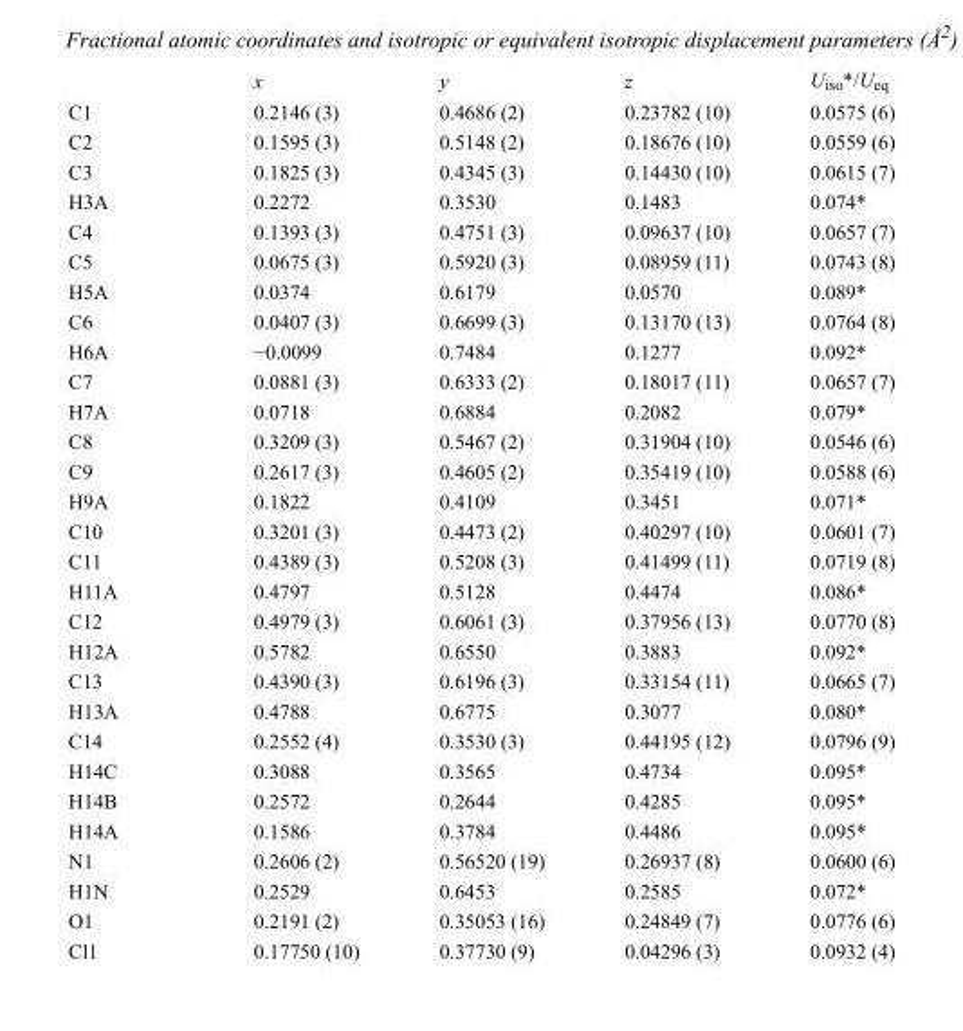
<table><thead><tr><td></td><td>x</td><td>y</td><td>z</td><td>U<sub>iso</sub>*/U<sub>eq</sub></td></tr></thead><tbody><tr><td>C1</td><td>0.2146 (3)</td><td>0.4686 (2)</td><td>0.23782 (10)</td><td>0.0575 (6)</td></tr><tr><td>C2</td><td>0.1595 (3)</td><td>0.5148 (2)</td><td>0.18676 (10)</td><td>0.0559 (6)</td></tr><tr><td>C3</td><td>0.1825 (3)</td><td>0.4345 (3)</td><td>0.14430 (10)</td><td>0.0615 (7)</td></tr><tr><td>H3A</td><td>0.2272</td><td>0.3530</td><td>0.1483</td><td>0.074*</td></tr><tr><td>C4</td><td>0.1393 (3)</td><td>0.4751 (3)</td><td>0.09637 (10)</td><td>0.0657 (7)</td></tr><tr><td>C5</td><td>0.0675 (3)</td><td>0.5920 (3)</td><td>0.08959 (11)</td><td>0.0743 (8)</td></tr><tr><td>H5A</td><td>0.0374</td><td>0.6179</td><td>0.0570</td><td>0.089*</td></tr><tr><td>C6</td><td>0.0407 (3)</td><td>0.6699 (3)</td><td>0.13170 (13)</td><td>0.0764 (8)</td></tr><tr><td>H6A</td><td>−0.0099</td><td>0.7484</td><td>0.1277</td><td>0.092*</td></tr><tr><td>C7</td><td>0.0881 (3)</td><td>0.6333 (2)</td><td>0.18017 (11)</td><td>0.0657 (7)</td></tr><tr><td>H7A</td><td>0.0718</td><td>0.6884</td><td>0.2082</td><td>0.079*</td></tr><tr><td>C8</td><td>0.3209 (3)</td><td>0.5467 (2)</td><td>0.31904 (10)</td><td>0.0546 (6)</td></tr><tr><td>C9</td><td>0.2617 (3)</td><td>0.4605 (2)</td><td>0.35419 (10)</td><td>0.0588 (6)</td></tr><tr><td>H9A</td><td>0.1822</td><td>0.4109</td><td>0.3451</td><td>0.071*</td></tr><tr><td>C10</td><td>0.3201 (3)</td><td>0.4473 (2)</td><td>0.40297 (10)</td><td>0.0601 (7)</td></tr><tr><td>C11</td><td>0.4389 (3)</td><td>0.5208 (3)</td><td>0.41499 (11)</td><td>0.0719 (8)</td></tr><tr><td>H11A</td><td>0.4797</td><td>0.5128</td><td>0.4474</td><td>0.086*</td></tr><tr><td>C12</td><td>0.4979 (3)</td><td>0.6061 (3)</td><td>0.37956 (13)</td><td>0.0770 (8)</td></tr><tr><td>H12A</td><td>0.5782</td><td>0.6550</td><td>0.3883</td><td>0.092*</td></tr><tr><td>C13</td><td>0.4390 (3)</td><td>0.6196 (3)</td><td>0.33154 (11)</td><td>0.0665 (7)</td></tr><tr><td>H13A</td><td>0.4788</td><td>0.6775</td><td>0.3077</td><td>0.080*</td></tr><tr><td>C14</td><td>0.2552 (4)</td><td>0.3530 (3)</td><td>0.44195 (12)</td><td>0.0796 (9)</td></tr><tr><td>H14C</td><td>0.3088</td><td>0.3565</td><td>0.4734</td><td>0.095*</td></tr><tr><td>H14B</td><td>0.2572</td><td>0.2644</td><td>0.4285</td><td>0.095*</td></tr><tr><td>H14A</td><td>0.1586</td><td>0.3784</td><td>0.4486</td><td>0.095*</td></tr><tr><td>N1</td><td>0.2606 (2)</td><td>0.56520 (19)</td><td>0.26937 (8)</td><td>0.0600 (6)</td></tr><tr><td>H1N</td><td>0.2529</td><td>0.6453</td><td>0.2585</td><td>0.072*</td></tr><tr><td>O1</td><td>0.2191 (2)</td><td>0.35053 (16)</td><td>0.24849 (7)</td><td>0.0776 (6)</td></tr><tr><td>Cl1</td><td>0.17750 (10)</td><td>0.37730 (9)</td><td>0.04296 (3)</td><td>0.0932 (4)</td></tr></tbody></table>